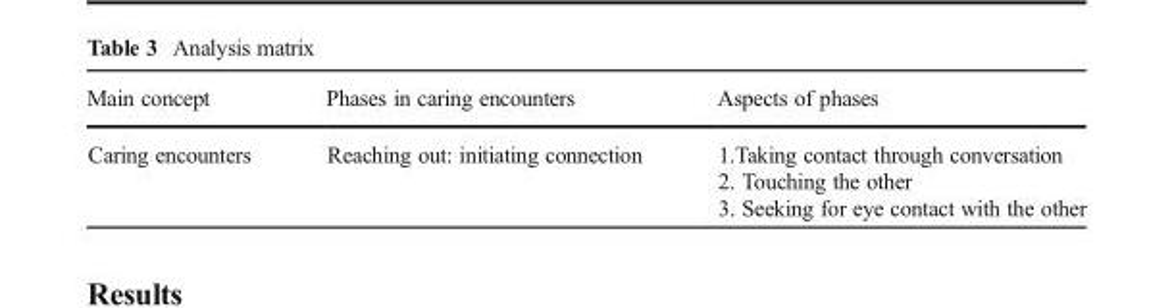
<table><thead><tr><td>Main concept</td><td>Phases in caring encounters</td><td>Aspects of phases</td></tr></thead><tbody><tr><td rowspan="3">Caring encounters</td><td rowspan="3">Reaching out: initiating connection</td><td>1.Taking contact through conversation</td></tr><tr><td>2. Touching the other</td></tr><tr><td>3. Seeking for eye contact with the other</td></tr></tbody></table>